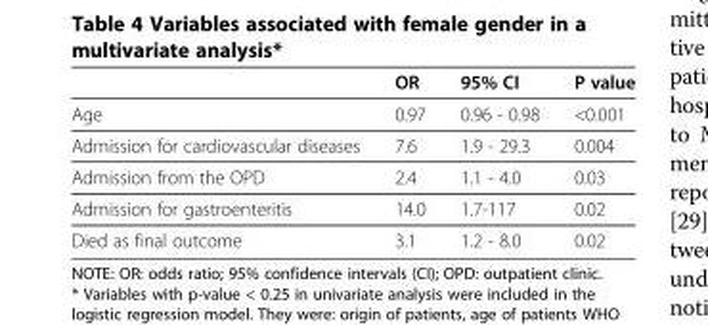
<table><thead><tr><td></td><td>OR</td><td>95% CI</td><td>P value</td></tr></thead><tbody><tr><td>Age</td><td>0.97</td><td>0.96 - 0.98</td><td>&lt;0.001</td></tr><tr><td>Admission for cardiovascular diseases</td><td>7.6</td><td>1.9 - 29.3</td><td>0.004</td></tr><tr><td>Admission from the OPD</td><td>2.4</td><td>1.1 - 4.0</td><td>0.03</td></tr><tr><td>Admission for gastroenteritis</td><td>14.0</td><td>1.7-117</td><td>0.02</td></tr><tr><td>Died as final outcome</td><td>3.1</td><td>1.2 - 8.0</td><td>0.02</td></tr></tbody></table>